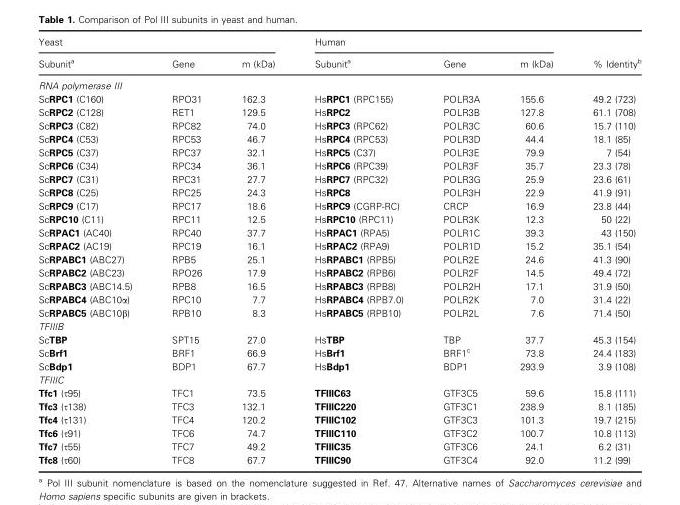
<table><thead><tr><td colspan="3">Yeast</td><td colspan="3">Human</td><td rowspan="2">% Identity<sup>b</sup></td></tr><tr><td>Subunit<sup>a</sup></td><td>Gene</td><td>m (kDa)</td><td>Subunit<sup>a</sup></td><td>Gene</td><td>m (kDa)</td></tr></thead><tbody><tr><td colspan="7">RNA polymerase III</td></tr><tr><td>ScRPC1 (C160)</td><td>RPO31</td><td>162.3</td><td>HsRPC1 (RPC155)</td><td>POLR3A</td><td>155.6</td><td>49.2 (723)</td></tr><tr><td>ScRPC2 (C128)</td><td>RET1</td><td>129.5</td><td>HsRPC2</td><td>POLR3B</td><td>127.8</td><td>61.1 (708)</td></tr><tr><td>ScRPC3 (C82)</td><td>RPC82</td><td>74.0</td><td>HsRPC3 (RPC62)</td><td>POLR3C</td><td>60.6</td><td>15.7 (110)</td></tr><tr><td>ScRPC4 (C53)</td><td>RPC53</td><td>46.7</td><td>HsRPC4 (RPC53)</td><td>POLR3D</td><td>44.4</td><td>18.1 (85)</td></tr><tr><td>ScRPC5 (C37)</td><td>RPC37</td><td>32.1</td><td>HsRPC5 (C37)</td><td>POLR3E</td><td>79.9</td><td>7 (54)</td></tr><tr><td>ScRPC6 (C34)</td><td>RPC34</td><td>36.1</td><td>HsRPC6 (RPC39)</td><td>POLR3F</td><td>35.7</td><td>23.3 (78)</td></tr><tr><td>ScRPC7 (C31)</td><td>RPC31</td><td>27.7</td><td>HsRPC7 (RPC32)</td><td>POLR3G</td><td>25.9</td><td>23.6 (61)</td></tr><tr><td>ScRPC8 (C25)</td><td>RPC25</td><td>24.3</td><td>HsRPC8</td><td>POLR3H</td><td>22.9</td><td>41.9 (91)</td></tr><tr><td>ScRPC9 (C17)</td><td>RPC17</td><td>18.6</td><td>HsRPC9 (CGRP-RC)</td><td>CRCP</td><td>16.9</td><td>23.8 (44)</td></tr><tr><td>ScRPC10 (C11)</td><td>RPC11</td><td>12.5</td><td>HsRPC10 (RPC11)</td><td>POLR3K</td><td>12.3</td><td>50 (22)</td></tr><tr><td>ScRPAC1 (AC40)</td><td>RPC40</td><td>37.7</td><td>HsRPAC1 (RPA5)</td><td>POLR1C</td><td>39.3</td><td>43 (150)</td></tr><tr><td>ScRPAC2 (AC19)</td><td>RPC19</td><td>16.1</td><td>HsRPAC2 (RPA9)</td><td>POLR1D</td><td>15.2</td><td>35.1 (54)</td></tr><tr><td>ScRPABC1 (ABC27)</td><td>RPB5</td><td>25.1</td><td>HsRPABC1 (RPB5)</td><td>POLR2E</td><td>24.6</td><td>41.3 (90)</td></tr><tr><td>ScRPABC2 (ABC23)</td><td>RPO26</td><td>17.9</td><td>HsRPABC2 (RPB6)</td><td>POLR2F</td><td>14.5</td><td>49.4 (72)</td></tr><tr><td>ScRPABC3 (ABC14.5)</td><td>RPB8</td><td>16.5</td><td>HsRPABC3 (RPB8)</td><td>POLR2H</td><td>17.1</td><td>31.9 (50)</td></tr><tr><td>ScRPABC4 (ABC10α)</td><td>RPC10</td><td>7.7</td><td>HsRPABC4 (RPB7.0)</td><td>POLR2K</td><td>7.0</td><td>31.4 (22)</td></tr><tr><td>ScRPABC5 (ABC10β)</td><td>RPB10</td><td>8.3</td><td>HsRPABC5 (RPB10)</td><td>POLR2L</td><td>7.6</td><td>71.4 (50)</td></tr><tr><td colspan="7">TFIIIB</td></tr><tr><td>ScTBP</td><td>SPT15</td><td>27.0</td><td>HsTBP</td><td>TBP</td><td>37.7</td><td>45.3 (154)</td></tr><tr><td>ScBrf1</td><td>BRF1</td><td>66.9</td><td>HsBrf1</td><td>BRF1<sup>c</sup></td><td>73.8</td><td>24.4 (183)</td></tr><tr><td>ScBdp1</td><td>BDP1</td><td>67.7</td><td>HsBdp1</td><td>BDP1</td><td>293.9</td><td>3.9 (108)</td></tr><tr><td colspan="7">TFIIIC</td></tr><tr><td>Tfc1 (τ95)</td><td>TFC1</td><td>73.5</td><td>TFIIIC63</td><td>GTF3C5</td><td>59.6</td><td>15.8 (111)</td></tr><tr><td>Tfc3 (τ138)</td><td>TFC3</td><td>132.1</td><td>TFIIIC220</td><td>GTF3C1</td><td>238.9</td><td>8.1 (185)</td></tr><tr><td>Tfc4 (τ131)</td><td>TFC4</td><td>120.2</td><td>TFIIIC102</td><td>GTF3C3</td><td>101.3</td><td>19.7 (215)</td></tr><tr><td>Tfc6 (τ91)</td><td>TFC6</td><td>74.7</td><td>TFIIIC110</td><td>GTF3C2</td><td>100.7</td><td>10.8 (113)</td></tr><tr><td>Tfc7 (τ55)</td><td>TFC7</td><td>49.2</td><td>TFIIIC35</td><td>GTF3C6</td><td>24.1</td><td>6.2 (31)</td></tr><tr><td>Tfc8 (τ60)</td><td>TFC8</td><td>67.7</td><td>TFIIIC90</td><td>GTF3C4</td><td>92.0</td><td>11.2 (99)</td></tr></tbody></table>